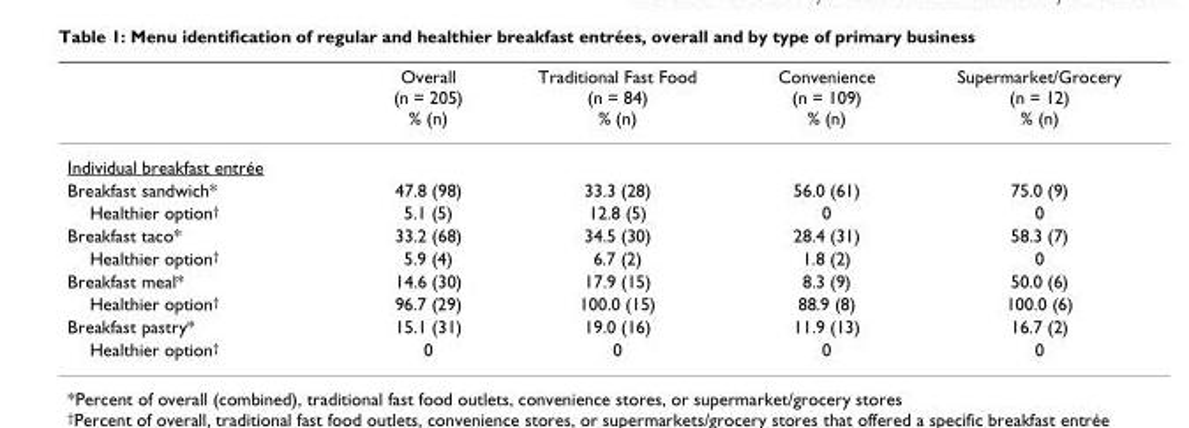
<table><thead><tr><td></td><td>Overall (n = 205) % (n)</td><td>Traditional Fast Food (n = 84) % (n)</td><td>Convenience (n = 109) % (n)</td><td>Supermarket/Grocery (n = 12) % (n)</td></tr></thead><tbody><tr><td colspan="5">Individual breakfast entrée</td></tr><tr><td>Breakfast sandwich*</td><td>47.8 (98)</td><td>33.3 (28)</td><td>56.0 (61)</td><td>75.0 (9)</td></tr><tr><td>Healthier option<sup>†</sup></td><td>5.1 (5)</td><td>12.8 (5)</td><td>0</td><td>0</td></tr><tr><td>Breakfast taco*</td><td>33.2 (68)</td><td>34.5 (30)</td><td>28.4 (31)</td><td>58.3 (7)</td></tr><tr><td>Healthier option<sup>†</sup></td><td>5.9 (4)</td><td>6.7 (2)</td><td>1.8 (2)</td><td>0</td></tr><tr><td>Breakfast meal*</td><td>14.6 (30)</td><td>17.9 (15)</td><td>8.3 (9)</td><td>50.0 (6)</td></tr><tr><td>Healthier option<sup>†</sup></td><td>96.7 (29)</td><td>100.0 (15)</td><td>88.9 (8)</td><td>100.0 (6)</td></tr><tr><td>Breakfast pastry*</td><td>15.1 (31)</td><td>19.0 (16)</td><td>11.9 (13)</td><td>16.7 (2)</td></tr><tr><td>Healthier option<sup>†</sup></td><td>0</td><td>0</td><td>0</td><td>0</td></tr></tbody></table>